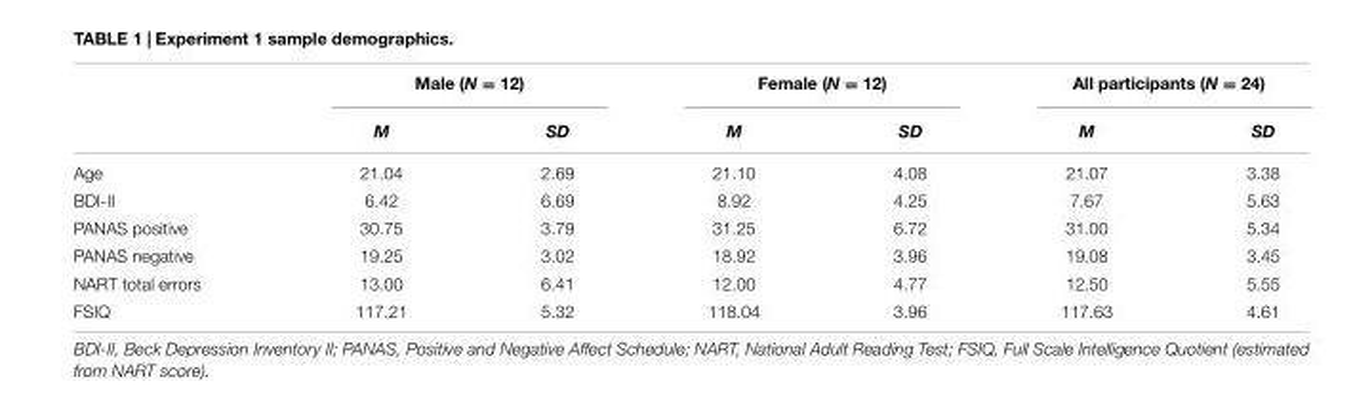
<table><thead><tr><td rowspan="2"></td><td colspan="2">Male (N = 12)</td><td colspan="2">Female (N = 12)</td><td colspan="2">All participants (N = 24)</td></tr><tr><td>M</td><td>SD</td><td>M</td><td>SD</td><td>M</td><td>SD</td></tr></thead><tbody><tr><td>Age</td><td>21.04</td><td>2.69</td><td>21.10</td><td>4.08</td><td>21.07</td><td>3.38</td></tr><tr><td>BDI-II</td><td>6.42</td><td>6.69</td><td>8.92</td><td>4.25</td><td>7.67</td><td>5.63</td></tr><tr><td>PANAS positive</td><td>30.75</td><td>3.79</td><td>31.25</td><td>6.72</td><td>31.00</td><td>5.34</td></tr><tr><td>PANAS negative</td><td>19.25</td><td>3.02</td><td>18.92</td><td>3.96</td><td>19.08</td><td>3.45</td></tr><tr><td>NART total errors</td><td>13.00</td><td>6.41</td><td>12.00</td><td>4.77</td><td>12.50</td><td>5.55</td></tr><tr><td>FSIQ</td><td>117.21</td><td>5.32</td><td>118.04</td><td>3.96</td><td>117.63</td><td>4.61</td></tr></tbody></table>